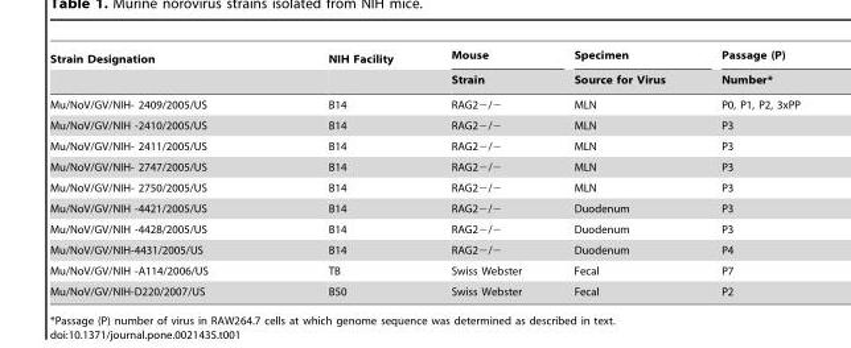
<table><thead><tr><td rowspan="2">Strain Designation</td><td rowspan="2">NIH Facility</td><td rowspan="2">Mouse Strain</td><td rowspan="2">Specimen Source for Virus</td><td rowspan="2">Passage (P) Number*</td></tr><tr></tr></thead><tbody><tr><td>Mu/NoV/GV/NIH- 2409/2005/US</td><td>B14</td><td>RAG2−/−</td><td>MLN</td><td>P0, P1, P2, 3xPP</td></tr><tr><td>Mu/NoV/GV/NIH -2410/2005/US</td><td>B14</td><td>RAG2−/−</td><td>MLN</td><td>P3</td></tr><tr><td>Mu/NoV/GV/NIH- 2411/2005/US</td><td>B14</td><td>RAG2−/−</td><td>MLN</td><td>P3</td></tr><tr><td>Mu/NoV/GV/NIH- 2747/2005/US</td><td>B14</td><td>RAG2−/−</td><td>MLN</td><td>P3</td></tr><tr><td>Mu/NoV/GV/NIH- 2750/2005/US</td><td>B14</td><td>RAG2−/−</td><td>MLN</td><td>P3</td></tr><tr><td>Mu/NoV/GV/NIH -4421/2005/US</td><td>B14</td><td>RAG2−/−</td><td>Duodenum</td><td>P3</td></tr><tr><td>Mu/NoV/GV/NIH -4428/2005/US</td><td>B14</td><td>RAG2−/−</td><td>Duodenum</td><td>P3</td></tr><tr><td>Mu/NoV/GV/NIH-4431/2005/US</td><td>B14</td><td>RAG2−/−</td><td>Duodenum</td><td>P4</td></tr><tr><td>Mu/NoV/GV/NIH -A114/2006/US</td><td>TB</td><td>Swiss Webster</td><td>Fecal</td><td>P7</td></tr><tr><td>Mu/NoV/GV/NIH-D220/2007/US</td><td>B50</td><td>Swiss Webster</td><td>Fecal</td><td>P2</td></tr></tbody></table>